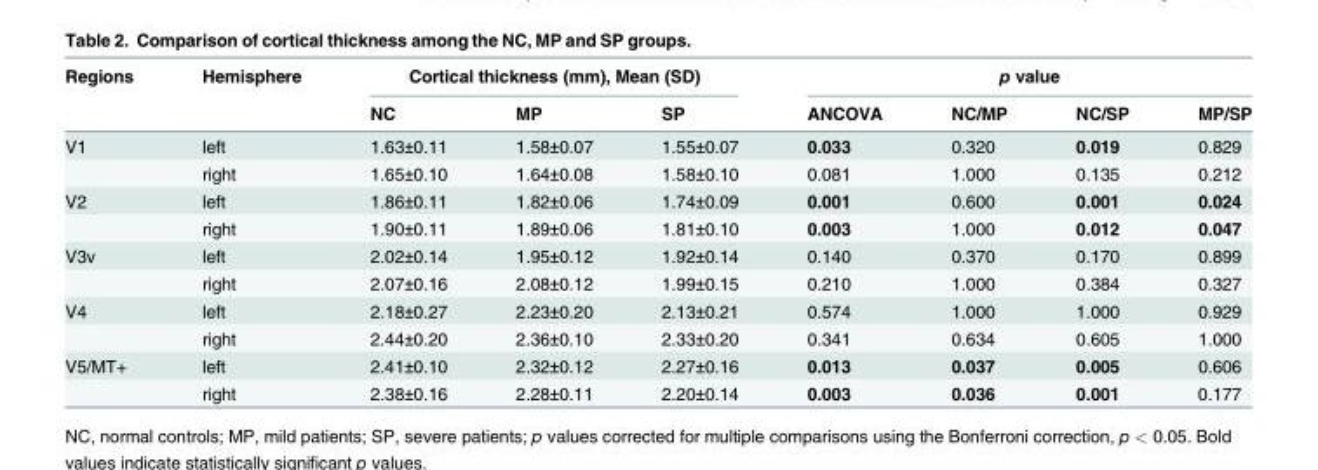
<table><thead><tr><td rowspan="2">Regions</td><td rowspan="2">Hemisphere</td><td colspan="3">Cortical thickness (mm), Mean (SD)</td><td colspan="4">p value</td></tr><tr><td>NC</td><td>MP</td><td>SP</td><td>ANCOVA</td><td>NC/MP</td><td>NC/SP</td><td>MP/SP</td></tr></thead><tbody><tr><td rowspan="2">V1</td><td>left</td><td>1.63±0.11</td><td>1.58±0.07</td><td>1.55±0.07</td><td>0.033</td><td>0.320</td><td>0.019</td><td>0.829</td></tr><tr><td>right</td><td>1.65±0.10</td><td>1.64±0.08</td><td>1.58±0.10</td><td>0.081</td><td>1.000</td><td>0.135</td><td>0.212</td></tr><tr><td rowspan="2">V2</td><td>left</td><td>1.86±0.11</td><td>1.82±0.06</td><td>1.74±0.09</td><td>0.001</td><td>0.600</td><td>0.001</td><td>0.024</td></tr><tr><td>right</td><td>1.90±0.11</td><td>1.89±0.06</td><td>1.81±0.10</td><td>0.003</td><td>1.000</td><td>0.012</td><td>0.047</td></tr><tr><td rowspan="2">V3v</td><td>left</td><td>2.02±0.14</td><td>1.95±0.12</td><td>1.92±0.14</td><td>0.140</td><td>0.370</td><td>0.170</td><td>0.899</td></tr><tr><td>right</td><td>2.07±0.16</td><td>2.08±0.12</td><td>1.99±0.15</td><td>0.210</td><td>1.000</td><td>0.384</td><td>0.327</td></tr><tr><td rowspan="2">V4</td><td>left</td><td>2.18±0.27</td><td>2.23±0.20</td><td>2.13±0.21</td><td>0.574</td><td>1.000</td><td>1.000</td><td>0.929</td></tr><tr><td>right</td><td>2.44±0.20</td><td>2.36±0.10</td><td>2.33±0.20</td><td>0.341</td><td>0.634</td><td>0.605</td><td>1.000</td></tr><tr><td rowspan="2">V5/MT+</td><td>left</td><td>2.41±0.10</td><td>2.32±0.12</td><td>2.27±0.16</td><td>0.013</td><td>0.037</td><td>0.005</td><td>0.606</td></tr><tr><td>right</td><td>2.38±0.16</td><td>2.28±0.11</td><td>2.20±0.14</td><td>0.003</td><td>0.036</td><td>0.001</td><td>0.177</td></tr></tbody></table>